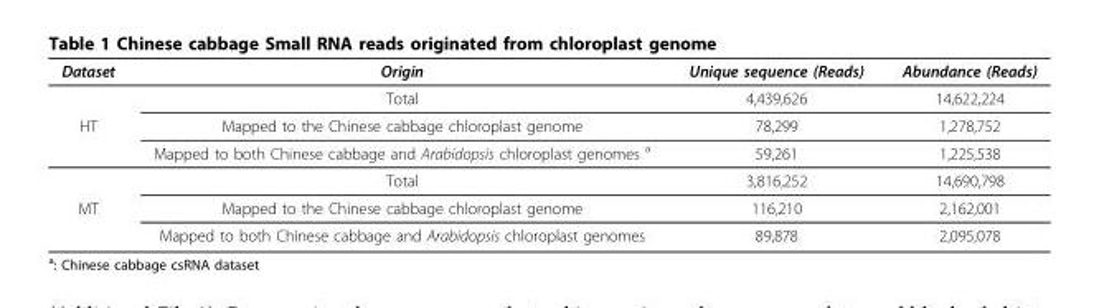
<table><thead><tr><td>Dataset</td><td>Origin</td><td>Unique sequence (Reads)</td><td>Abundance (Reads)</td></tr></thead><tbody><tr><td></td><td>Total</td><td>4,439,626</td><td>14,622,224</td></tr><tr><td rowspan="3">HT</td><td>Mapped to the Chinese cabbage chloroplast genome</td><td>78,299</td><td>1,278,752</td></tr><tr><td>Mapped to both Chinese cabbage and Arabidopsis chloroplast genomes <sup>a</sup></td><td>59,261</td><td>1,225,538</td></tr><tr><td>Total</td><td>3,816,252</td><td>14,690,798</td></tr><tr><td rowspan="2">MT</td><td>Mapped to the Chinese cabbage chloroplast genome</td><td>116,210</td><td>2,162,001</td></tr><tr><td>Mapped to both Chinese cabbage and Arabidopsis chloroplast genomes</td><td>89,878</td><td>2,095,078</td></tr></tbody></table>